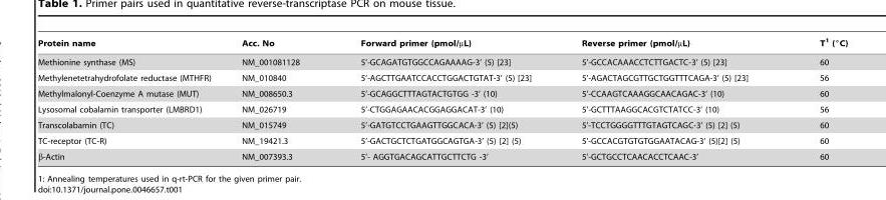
<table><thead><tr><td>Protein name</td><td>Acc. No</td><td>Forward primer (pmol/µL)</td><td>Reverse primer (pmol/µL)</td><td>T<sup>1</sup> (°C)</td></tr></thead><tbody><tr><td>Methionine synthase (MS)</td><td>NM_001081128</td><td>5’-GCAGATGTGGCCAGAAAAG-3’ (5) [23]</td><td>5’-GCCACAAACCTCTTGACTC-3’ (5) [23]</td><td>60</td></tr><tr><td>Methylenetetrahydrofolate reductase (MTHFR)</td><td>NM_010840</td><td>5’-AGCTTGAATCCACCTGGACTGTAT-3’ (5) [23]</td><td>5’-AGACTAGCGTTGCTGGTTTCAGA-3’ (5) [23]</td><td>56</td></tr><tr><td>Methylmalonyl-Coenzyme A mutase (MUT)</td><td>NM_008650.3</td><td>5’-GCAGGCTTTAGTACTGTGG -3’ (10)</td><td>5’-CCAAGTCAAAGGCAACAGAC-3’ (10)</td><td>60</td></tr><tr><td>Lysosomal cobalamin transporter (LMBRD1)</td><td>NM_026719</td><td>5’-CTGGAGAACACGGAGGACAT-3’ (10)</td><td>5’-GCTTTAAGGCACGTCTATCC-3’ (10)</td><td>56</td></tr><tr><td>Transcolabamin (TC)</td><td>NM_015749</td><td>5’-GATGTCCTGAAGTTGGCACA-3’ (5) [2](5)</td><td>5’-TCCTGGGGTTTGTAGTCAGC-3’ (5) [2] (5)</td><td>60</td></tr><tr><td>TC-receptor (TC-R)</td><td>NM_19421.3</td><td>5’-GACTGCTCTGATGGCAGTGA-3’ (5) [2] (5)</td><td>5’-GCCACGTGTGTGGAATACAG-3’ (5)[2] (5)</td><td>60</td></tr><tr><td>β-Actin</td><td>NM_007393.3</td><td>5’- AGGTGACAGCATTGCTTCTG -3’</td><td>5’-GCTGCCTCAACACCTCAAC-3’</td><td>60</td></tr></tbody></table>